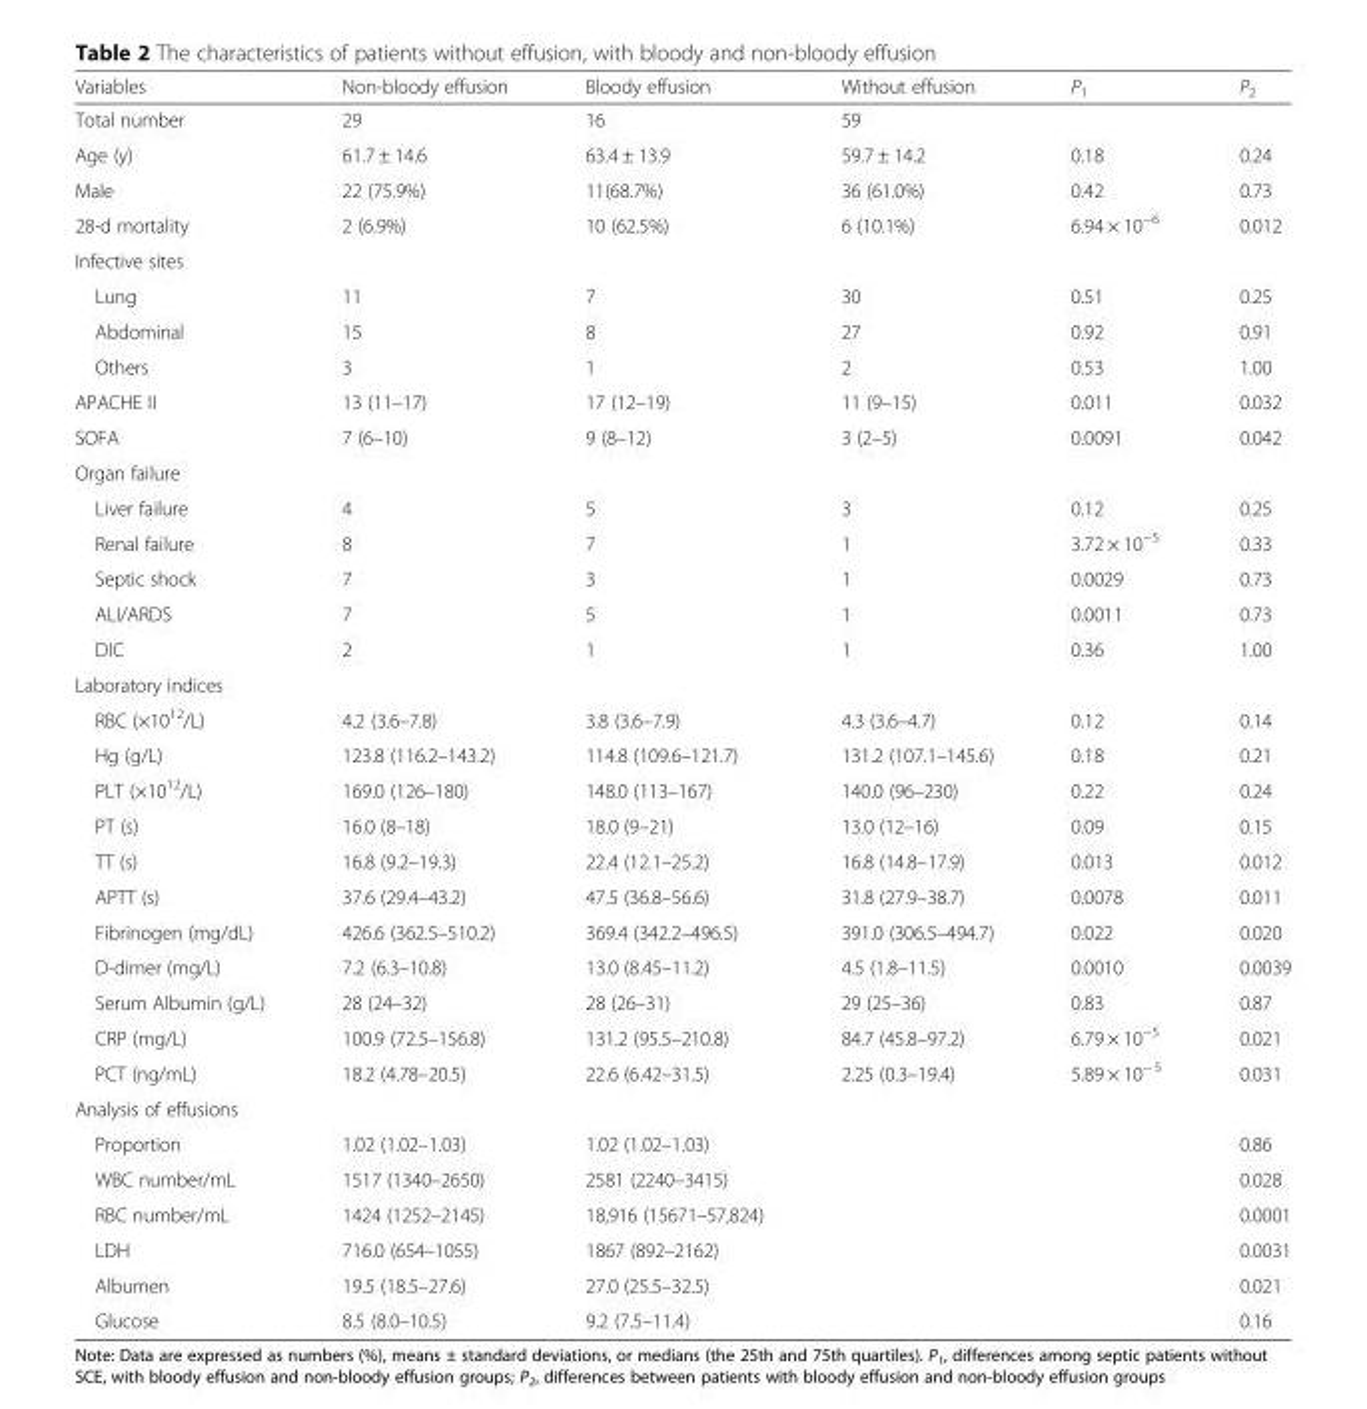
<table><thead><tr><td>Variables</td><td>Non-bloody effusion</td><td>Bloody effusion</td><td>Without effusion</td><td>P<sub>1</sub></td><td>P<sub>2</sub></td></tr></thead><tbody><tr><td>Total number</td><td>29</td><td>16</td><td>59</td><td></td><td></td></tr><tr><td>Age (y)</td><td>61.7 ± 14.6</td><td>63.4 ± 13.9</td><td>59.7 ± 14.2</td><td>0.18</td><td>0.24</td></tr><tr><td>Male</td><td>22 (75.9%)</td><td>11(68.7%)</td><td>36 (61.0%)</td><td>0.42</td><td>0.73</td></tr><tr><td>28-d mortality</td><td>2 (6.9%)</td><td>10 (62.5%)</td><td>6 (10.1%)</td><td>6.94 × 10<sup>−6</sup></td><td>0.012</td></tr><tr><td colspan="6">Infective sites</td></tr><tr><td>Lung</td><td>11</td><td>7</td><td>30</td><td>0.51</td><td>0.25</td></tr><tr><td>Abdominal</td><td>15</td><td>8</td><td>27</td><td>0.92</td><td>0.91</td></tr><tr><td>Others</td><td>3</td><td>1</td><td>2</td><td>0.53</td><td>1.00</td></tr><tr><td>APACHE II</td><td>13 (11–17)</td><td>17 (12–19)</td><td>11 (9–15)</td><td>0.011</td><td>0.032</td></tr><tr><td>SOFA</td><td>7 (6–10)</td><td>9 (8–12)</td><td>3 (2–5)</td><td>0.0091</td><td>0.042</td></tr><tr><td colspan="6">Organ failure</td></tr><tr><td>Liver failure</td><td>4</td><td>5</td><td>3</td><td>0.12</td><td>0.25</td></tr><tr><td>Renal failure</td><td>8</td><td>7</td><td>1</td><td>3.72 × 10<sup>−5</sup></td><td>0.33</td></tr><tr><td>Septic shock</td><td>7</td><td>3</td><td>1</td><td>0.0029</td><td>0.73</td></tr><tr><td>ALI/ARDS</td><td>7</td><td>5</td><td>1</td><td>0.0011</td><td>0.73</td></tr><tr><td>DIC</td><td>2</td><td>1</td><td>1</td><td>0.36</td><td>1.00</td></tr><tr><td colspan="6">Laboratory indices</td></tr><tr><td>RBC (×10<sup>12</sup>/L)</td><td>4.2 (3.6–7.8)</td><td>3.8 (3.6–7.9)</td><td>4.3 (3.6–4.7)</td><td>0.12</td><td>0.14</td></tr><tr><td>Hg (g/L)</td><td>123.8 (116.2–143.2)</td><td>114.8 (109.6–121.7)</td><td>131.2 (107.1–145.6)</td><td>0.18</td><td>0.21</td></tr><tr><td>PLT (×10<sup>12</sup>/L)</td><td>169.0 (126–180)</td><td>148.0 (113–167)</td><td>140.0 (96–230)</td><td>0.22</td><td>0.24</td></tr><tr><td>PT (s)</td><td>16.0 (8–18)</td><td>18.0 (9–21)</td><td>13.0 (12–16)</td><td>0.09</td><td>0.15</td></tr><tr><td>TT (s)</td><td>16.8 (9.2–19.3)</td><td>22.4 (12.1–25.2)</td><td>16.8 (14.8–17.9)</td><td>0.013</td><td>0.012</td></tr><tr><td>APTT (s)</td><td>37.6 (29.4–43.2)</td><td>47.5 (36.8–56.6)</td><td>31.8 (27.9–38.7)</td><td>0.0078</td><td>0.011</td></tr><tr><td>Fibrinogen (mg/dL)</td><td>426.6 (362.5–510.2)</td><td>369.4 (342.2–496.5)</td><td>391.0 (306.5–494.7)</td><td>0.022</td><td>0.020</td></tr><tr><td>D-dimer (mg/L)</td><td>7.2 (6.3–10.8)</td><td>13.0 (8.45–11.2)</td><td>4.5 (1.8–11.5)</td><td>0.0010</td><td>0.0039</td></tr><tr><td>Serum Albumin (g/L)</td><td>28 (24–32)</td><td>28 (26–31)</td><td>29 (25–36)</td><td>0.83</td><td>0.87</td></tr><tr><td>CRP (mg/L)</td><td>100.9 (72.5–156.8)</td><td>131.2 (95.5–210.8)</td><td>84.7 (45.8–97.2)</td><td>6.79 × 10<sup>−5</sup></td><td>0.021</td></tr><tr><td>PCT (ng/mL)</td><td>18.2 (4.78–20.5)</td><td>22.6 (6.42–31.5)</td><td>2.25 (0.3–19.4)</td><td>5.89 × 10<sup>− 5</sup></td><td>0.031</td></tr><tr><td colspan="6">Analysis of effusions</td></tr><tr><td>Proportion</td><td>1.02 (1.02–1.03)</td><td>1.02 (1.02–1.03)</td><td></td><td></td><td>0.86</td></tr><tr><td>WBC number/mL</td><td>1517 (1340–2650)</td><td>2581 (2240–3415)</td><td></td><td></td><td>0.028</td></tr><tr><td>RBC number/mL</td><td>1424 (1252–2145)</td><td>18,916 (15671–57,824)</td><td></td><td></td><td>0.0001</td></tr><tr><td>LDH</td><td>716.0 (654–1055)</td><td>1867 (892–2162)</td><td></td><td></td><td>0.0031</td></tr><tr><td>Albumen</td><td>19.5 (18.5–27.6)</td><td>27.0 (25.5–32.5)</td><td></td><td></td><td>0.021</td></tr><tr><td>Glucose</td><td>8.5 (8.0–10.5)</td><td>9.2 (7.5–11.4)</td><td></td><td></td><td>0.16</td></tr></tbody></table>